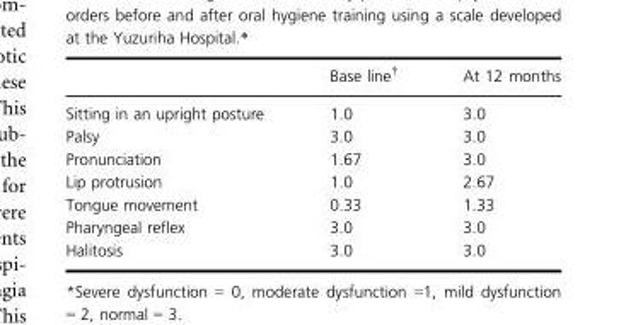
<table><thead><tr><td></td><td>Base line†</td><td>At 12 months</td></tr></thead><tbody><tr><td>Sitting in an upright posture</td><td>1.0</td><td>3.0</td></tr><tr><td>Palsy</td><td>3.0</td><td>3.0</td></tr><tr><td>Pronunciation</td><td>1.67</td><td>3.0</td></tr><tr><td>Lip protrusion</td><td>1.0</td><td>2.67</td></tr><tr><td>Tongue movement</td><td>0.33</td><td>1.33</td></tr><tr><td>Pharyngeal reflex</td><td>3.0</td><td>3.0</td></tr><tr><td>Halitosis</td><td>3.0</td><td>3.0</td></tr></tbody></table>